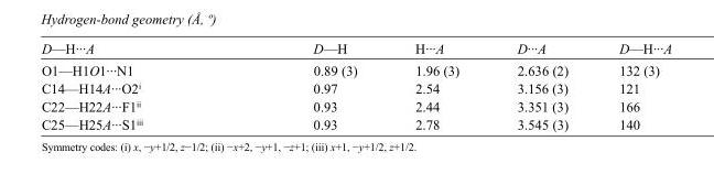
<table><tbody><tr><td>D—H···A</td><td>D—H</td><td>H···A</td><td>D···A</td><td>D—H···A</td></tr><tr><td>O1—H1O1···N1</td><td>0.89 (3)</td><td>1.96 (3)</td><td>2.636 (2)</td><td>132 (3)</td></tr><tr><td>C14—H14A···O2<sup>i</sup></td><td>0.97</td><td>2.54</td><td>3.156 (3)</td><td>121</td></tr><tr><td>C22—H22A···F1<sup>ii</sup></td><td>0.93</td><td>2.44</td><td>3.351 (3)</td><td>166</td></tr><tr><td>C25—H25A···S1<sup>iii</sup></td><td>0.93</td><td>2.78</td><td>3.545 (3)</td><td>140</td></tr></tbody></table>